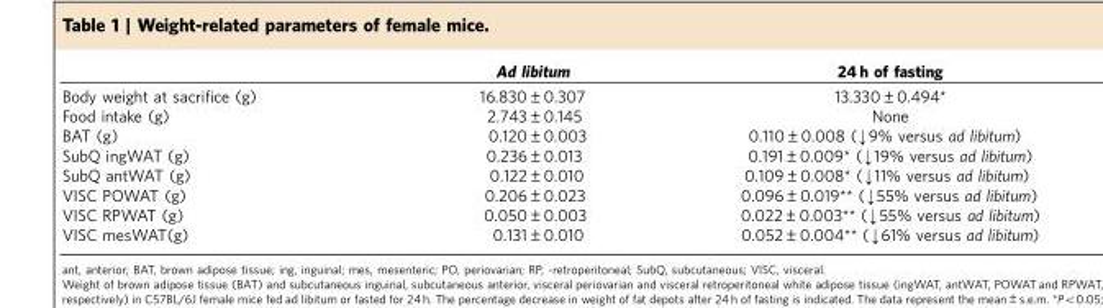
<table><thead><tr><td></td><td>Ad libitum</td><td>24 h of fasting</td></tr></thead><tbody><tr><td>Body weight at sacrifice (g)</td><td>16.830±0.307</td><td>13.330±0.494*</td></tr><tr><td>Food intake (g)</td><td>2.743±0.145</td><td>None</td></tr><tr><td>BAT (g)</td><td>0.120±0.003</td><td>0.110±0.008 (↓9% versus ad libitum)</td></tr><tr><td>SubQ ingWAT (g)</td><td>0.236±0.013</td><td>0.191±0.009* (↓19% versus ad libitum)</td></tr><tr><td>SubQ antWAT (g)</td><td>0.122±0.010</td><td>0.109±0.008* (↓11% versus ad libitum)</td></tr><tr><td>VISC POWAT (g)</td><td>0.206±0.023</td><td>0.096±0.019** (↓55% versus ad libitum)</td></tr><tr><td>VISC RPWAT (g)</td><td>0.050±0.003</td><td>0.022±0.003** (↓55% versus ad libitum)</td></tr><tr><td>VISC mesWAT(g)</td><td>0.131±0.010</td><td>0.052±0.004** (↓61% versus ad libitum)</td></tr></tbody></table>